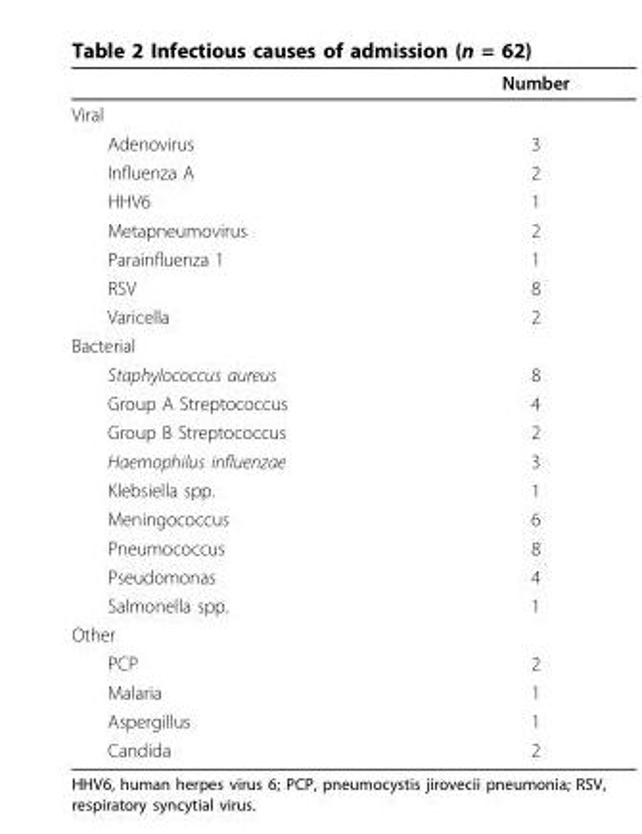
<table><thead><tr><td></td><td>Number</td></tr></thead><tbody><tr><td colspan="2">Viral</td></tr><tr><td>Adenovirus</td><td>3</td></tr><tr><td>Influenza A</td><td>2</td></tr><tr><td>HHV6</td><td>1</td></tr><tr><td>Metapneumovirus</td><td>2</td></tr><tr><td>Parainfluenza 1</td><td>1</td></tr><tr><td>RSV</td><td>8</td></tr><tr><td>Varicella</td><td>2</td></tr><tr><td colspan="2">Bacterial</td></tr><tr><td>Staphylococcus aureus</td><td>8</td></tr><tr><td>Group A Streptococcus</td><td>4</td></tr><tr><td>Group B Streptococcus</td><td>2</td></tr><tr><td>Haemophilus influenzae</td><td>3</td></tr><tr><td>Klebsiella spp.</td><td>1</td></tr><tr><td>Meningococcus</td><td>6</td></tr><tr><td>Pneumococcus</td><td>8</td></tr><tr><td>Pseudomonas</td><td>4</td></tr><tr><td>Salmonella spp.</td><td>1</td></tr><tr><td colspan="2">Other</td></tr><tr><td>PCP</td><td>2</td></tr><tr><td>Malaria</td><td>1</td></tr><tr><td>Aspergillus</td><td>1</td></tr><tr><td>Candida</td><td>2</td></tr></tbody></table>